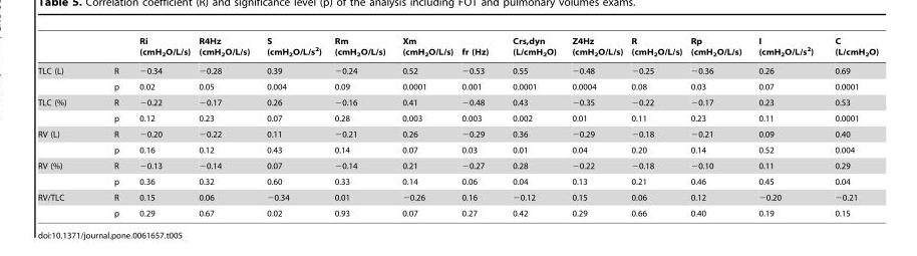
<table><thead><tr><td></td><td></td><td>Ri (cmH<sub>2</sub>O/L/s)</td><td>R4Hz (cmH<sub>2</sub>O/L/s)</td><td>S (cmH<sub>2</sub>O/L/s<sup>2</sup>)</td><td>Rm (cmH<sub>2</sub>O/L/s)</td><td>Xm (cmH<sub>2</sub>O/L/s)</td><td>fr (Hz)</td><td>Crs,dyn (L/cmH<sub>2</sub>O)</td><td>Z4Hz (cmH<sub>2</sub>O/L/s)</td><td>R (cmH<sub>2</sub>O/L/s)</td><td>Rp (cmH<sub>2</sub>O/L/s)</td><td>I (cmH<sub>2</sub>O/L/s<sup>2</sup>)</td><td>C (L/cmH<sub>2</sub>O)</td></tr></thead><tbody><tr><td rowspan="2">TLC (L)</td><td>R</td><td>−0.34</td><td>−0.28</td><td>0.39</td><td>−0.24</td><td>0.52</td><td>−0.53</td><td>0.55</td><td>−0.48</td><td>−0.25</td><td>−0.36</td><td>0.26</td><td>0.69</td></tr><tr><td>p</td><td>0.02</td><td>0.05</td><td>0.004</td><td>0.09</td><td>0.0001</td><td>0.001</td><td>0.0001</td><td>0.0004</td><td>0.08</td><td>0.03</td><td>0.07</td><td>0.0001</td></tr><tr><td rowspan="2">TLC (%)</td><td>R</td><td>−0.22</td><td>−0.17</td><td>0.26</td><td>−0.16</td><td>0.41</td><td>−0.48</td><td>0.43</td><td>−0.35</td><td>−0.22</td><td>−0.17</td><td>0.23</td><td>0.53</td></tr><tr><td>p</td><td>0.12</td><td>0.23</td><td>0.07</td><td>0.28</td><td>0.003</td><td>0.003</td><td>0.002</td><td>0.01</td><td>0.11</td><td>0.23</td><td>0.11</td><td>0.0001</td></tr><tr><td rowspan="2">RV (L)</td><td>R</td><td>−0.20</td><td>−0.22</td><td>0.11</td><td>−0.21</td><td>0.26</td><td>−0.29</td><td>0.36</td><td>−0.29</td><td>−0.18</td><td>−0.21</td><td>0.09</td><td>0.40</td></tr><tr><td>p</td><td>0.16</td><td>0.12</td><td>0.43</td><td>0.14</td><td>0.07</td><td>0.03</td><td>0.01</td><td>0.04</td><td>0.20</td><td>0.14</td><td>0.52</td><td>0.004</td></tr><tr><td rowspan="2">RV (%)</td><td>R</td><td>−0.13</td><td>−0.14</td><td>0.07</td><td>−0.14</td><td>0.21</td><td>−0.27</td><td>0.28</td><td>−0.22</td><td>−0.18</td><td>−0.10</td><td>0.11</td><td>0.29</td></tr><tr><td>p</td><td>0.36</td><td>0.32</td><td>0.60</td><td>0.33</td><td>0.14</td><td>0.06</td><td>0.04</td><td>0.13</td><td>0.21</td><td>0.46</td><td>0.45</td><td>0.04</td></tr><tr><td rowspan="2">RV/TLC</td><td>R</td><td>0.15</td><td>0.06</td><td>−0.34</td><td>0.01</td><td>−0.26</td><td>0.16</td><td>−0.12</td><td>0.15</td><td>0.06</td><td>0.12</td><td>−0.20</td><td>−0.21</td></tr><tr><td>p</td><td>0.29</td><td>0.67</td><td>0.02</td><td>0.93</td><td>0.07</td><td>0.27</td><td>0.42</td><td>0.29</td><td>0.66</td><td>0.40</td><td>0.19</td><td>0.15</td></tr></tbody></table>